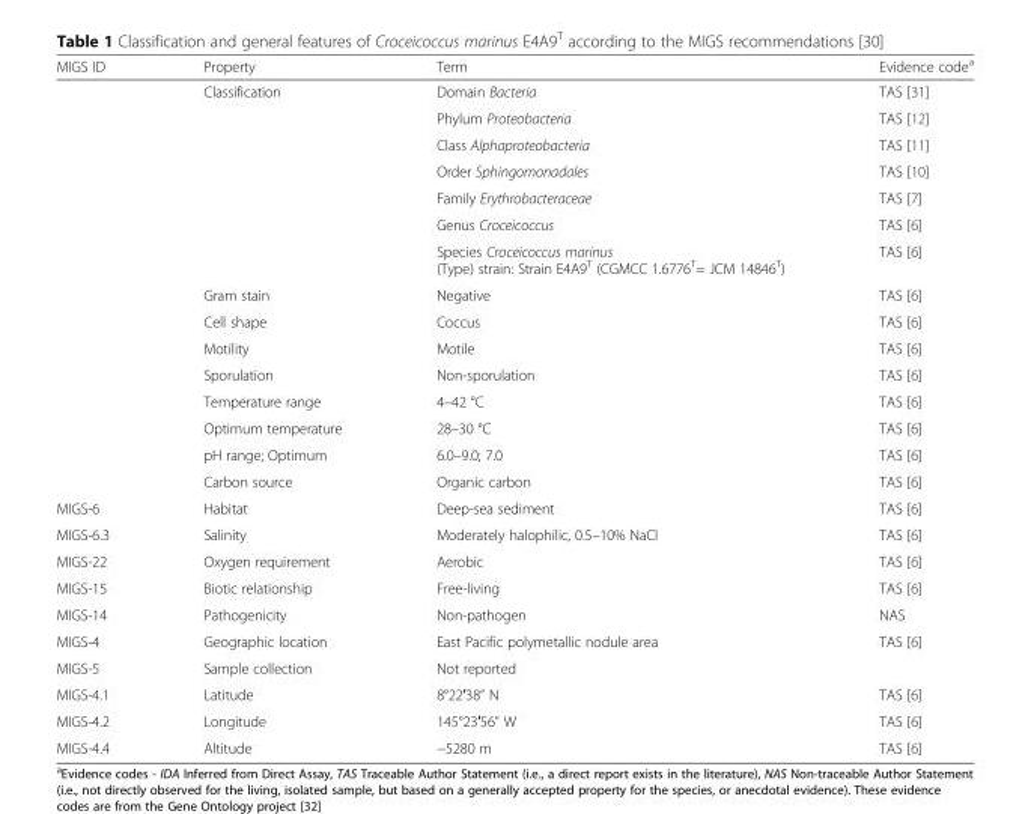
<table><thead><tr><td>MIGS ID</td><td>Property</td><td>Term</td><td>Evidence code<sup>a</sup></td></tr></thead><tbody><tr><td></td><td>Classification</td><td>Domain Bacteria</td><td>TAS [31]</td></tr><tr><td></td><td></td><td>Phylum Proteobacteria</td><td>TAS [12]</td></tr><tr><td></td><td></td><td>Class Alphaproteobacteria</td><td>TAS [11]</td></tr><tr><td></td><td></td><td>Order Sphingomonadales</td><td>TAS [10]</td></tr><tr><td></td><td></td><td>Family Erythrobacteraceae</td><td>TAS [7]</td></tr><tr><td></td><td></td><td>Genus Croceicoccus</td><td>TAS [6]</td></tr><tr><td></td><td></td><td>Species Croceicoccus marinus (Type) strain: Strain E4A9<sup>T</sup> (CGMCC 1.6776<sup>T</sup>= JCM 14846<sup>T</sup>)</td><td>TAS [6]</td></tr><tr><td></td><td>Gram stain</td><td>Negative</td><td>TAS [6]</td></tr><tr><td></td><td>Cell shape</td><td>Coccus</td><td>TAS [6]</td></tr><tr><td></td><td>Motility</td><td>Motile</td><td>TAS [6]</td></tr><tr><td></td><td>Sporulation</td><td>Non-sporulation</td><td>TAS [6]</td></tr><tr><td></td><td>Temperature range</td><td>4–42 °C</td><td>TAS [6]</td></tr><tr><td></td><td>Optimum temperature</td><td>28–30 °C</td><td>TAS [6]</td></tr><tr><td></td><td>pH range; Optimum</td><td>6.0–9.0; 7.0</td><td>TAS [6]</td></tr><tr><td></td><td>Carbon source</td><td>Organic carbon</td><td>TAS [6]</td></tr><tr><td>MIGS-6</td><td>Habitat</td><td>Deep-sea sediment</td><td>TAS [6]</td></tr><tr><td>MIGS-6.3</td><td>Salinity</td><td>Moderately halophilic, 0.5–10% NaCl</td><td>TAS [6]</td></tr><tr><td>MIGS-22</td><td>Oxygen requirement</td><td>Aerobic</td><td>TAS [6]</td></tr><tr><td>MIGS-15</td><td>Biotic relationship</td><td>Free-living</td><td>TAS [6]</td></tr><tr><td>MIGS-14</td><td>Pathogenicity</td><td>Non-pathogen</td><td>NAS</td></tr><tr><td>MIGS-4</td><td>Geographic location</td><td>East Pacific polymetallic nodule area</td><td>TAS [6]</td></tr><tr><td>MIGS-5</td><td>Sample collection</td><td>Not reported</td><td></td></tr><tr><td>MIGS-4.1</td><td>Latitude</td><td>8°22′38” N</td><td>TAS [6]</td></tr><tr><td>MIGS-4.2</td><td>Longitude</td><td>145°23′56” W</td><td>TAS [6]</td></tr><tr><td>MIGS-4.4</td><td>Altitude</td><td>−5280 m</td><td>TAS [6]</td></tr></tbody></table>